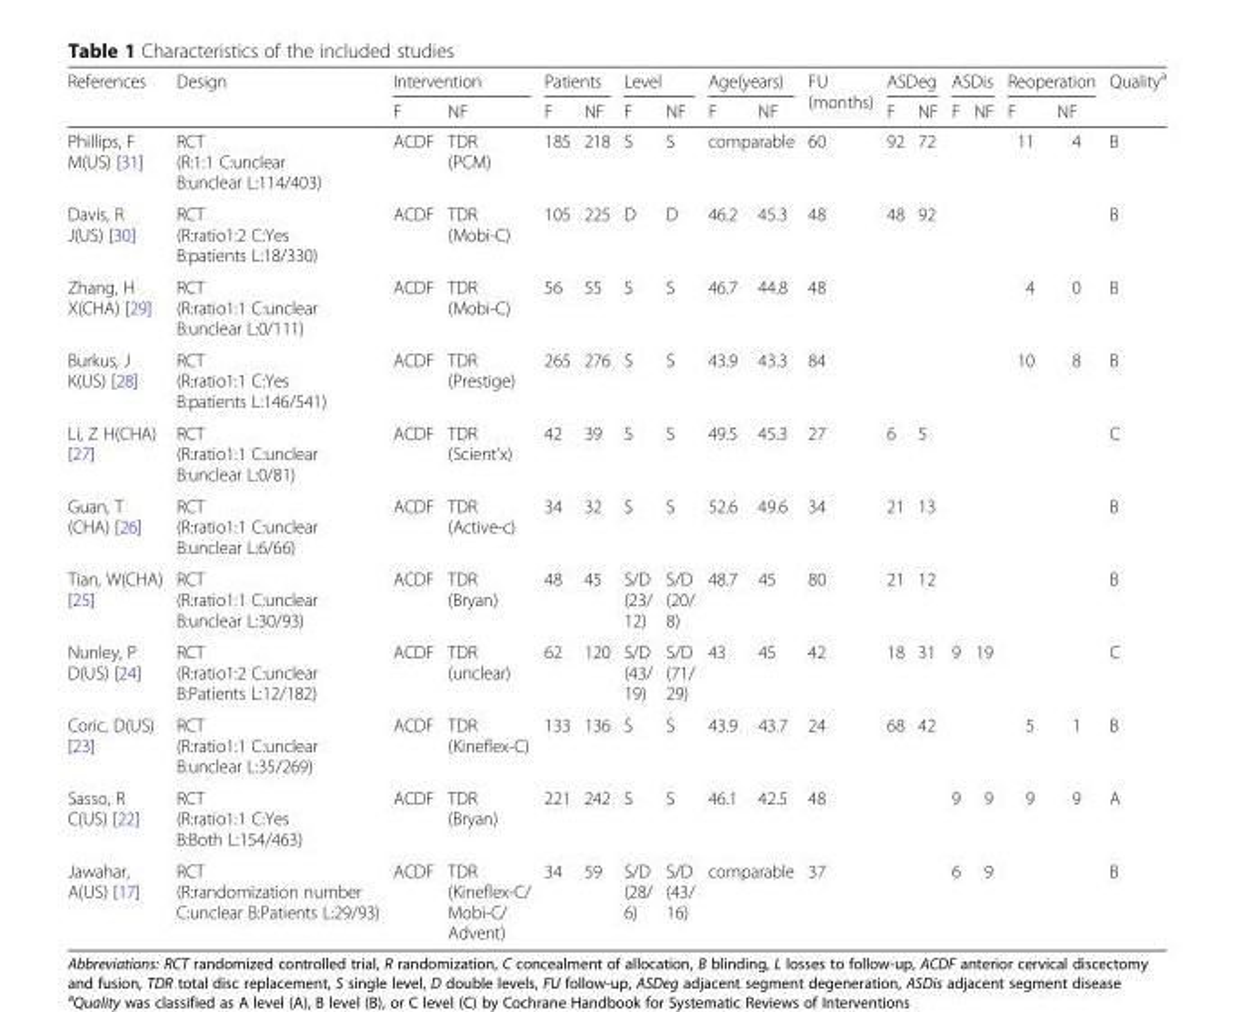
<table><thead><tr><td rowspan="2">References</td><td rowspan="2">Design</td><td colspan="2">Intervention</td><td colspan="2">Patients</td><td colspan="2">Level</td><td colspan="2">Age(years)</td><td rowspan="2">FU (months)</td><td colspan="2">ASDeg</td><td colspan="2">ASDis</td><td colspan="2">Reoperation</td><td rowspan="2">Quality<sup>a</sup></td></tr><tr><td>F</td><td>NF</td><td>F</td><td>NF</td><td>F</td><td>NF</td><td>F</td><td>NF</td><td>F</td><td>NF</td><td>F</td><td>NF</td><td>F</td><td>NF</td></tr></thead><tbody><tr><td>Phillips, F M(US) [31]</td><td>RCT (R:1:1 C:unclear B:unclear L:114/403)</td><td>ACDF</td><td>TDR (PCM)</td><td>185</td><td>218</td><td>S</td><td>S</td><td colspan="2">comparable</td><td>60</td><td>92</td><td>72</td><td></td><td></td><td>11</td><td>4</td><td>B</td></tr><tr><td>Davis, R J(US) [30]</td><td>RCT (R:ratio1:2 C:Yes B:patients L:18/330)</td><td>ACDF</td><td>TDR (Mobi-C)</td><td>105</td><td>225</td><td>D</td><td>D</td><td>46.2</td><td>45.3</td><td>48</td><td>48</td><td>92</td><td></td><td></td><td></td><td></td><td>B</td></tr><tr><td>Zhang, H X(CHA) [29]</td><td>RCT (R:ratio1:1 C:unclear B:unclear L:0/111)</td><td>ACDF</td><td>TDR (Mobi-C)</td><td>56</td><td>55</td><td>S</td><td>S</td><td>46.7</td><td>44.8</td><td>48</td><td></td><td></td><td></td><td></td><td>4</td><td>0</td><td>B</td></tr><tr><td>Burkus, J K(US) [28]</td><td>RCT (R:ratio1:1 C:Yes B:patients L:146/541)</td><td>ACDF</td><td>TDR (Prestige)</td><td>265</td><td>276</td><td>S</td><td>S</td><td>43.9</td><td>43.3</td><td>84</td><td></td><td></td><td></td><td></td><td>10</td><td>8</td><td>B</td></tr><tr><td>Li, Z H(CHA) [27]</td><td>RCT (R:ratio1:1 C:unclear B:unclear L:0/81)</td><td>ACDF</td><td>TDR (Scient’x)</td><td>42</td><td>39</td><td>S</td><td>S</td><td>49.5</td><td>45.3</td><td>27</td><td>6</td><td>5</td><td></td><td></td><td></td><td></td><td>C</td></tr><tr><td>Guan, T (CHA) [26]</td><td>RCT (R:ratio1:1 C:unclear B:unclear L:6/66)</td><td>ACDF</td><td>TDR (Active-c)</td><td>34</td><td>32</td><td>S</td><td>S</td><td>52.6</td><td>49.6</td><td>34</td><td>21</td><td>13</td><td></td><td></td><td></td><td></td><td>B</td></tr><tr><td>Tian, W(CHA) [25]</td><td>RCT (R:ratio1:1 C:unclear B:unclear L:30/93)</td><td>ACDF</td><td>TDR (Bryan)</td><td>48</td><td>45</td><td>S/D (23/ 12)</td><td>S/D (20/ 8)</td><td>48.7</td><td>45</td><td>80</td><td>21</td><td>12</td><td></td><td></td><td></td><td></td><td>B</td></tr><tr><td>Nunley, P D(US) [24]</td><td>RCT (R:ratio1:2 C:unclear B:Patients L:12/182)</td><td>ACDF</td><td>TDR (unclear)</td><td>62</td><td>120</td><td>S/D (43/ 19)</td><td>S/D (71/ 29)</td><td>43</td><td>45</td><td>42</td><td>18</td><td>31</td><td>9</td><td>19</td><td></td><td></td><td>C</td></tr><tr><td>Coric, D(US) [23]</td><td>RCT (R:ratio1:1 C:unclear B:unclear L:35/269)</td><td>ACDF</td><td>TDR (Kineflex-C)</td><td>133</td><td>136</td><td>S</td><td>S</td><td>43.9</td><td>43.7</td><td>24</td><td>68</td><td>42</td><td></td><td></td><td>5</td><td>1</td><td>B</td></tr><tr><td>Sasso, R C(US) [22]</td><td>RCT (R:ratio1:1 C:Yes B:Both L:154/463)</td><td>ACDF</td><td>TDR (Bryan)</td><td>221</td><td>242</td><td>S</td><td>S</td><td>46.1</td><td>42.5</td><td>48</td><td></td><td></td><td>9</td><td>9</td><td>9</td><td>9</td><td>A</td></tr><tr><td>Jawahar, A(US) [17]</td><td>RCT (R:randomization number C:unclear B:Patients L:29/93)</td><td>ACDF</td><td>TDR (Kineflex-C/ Mobi-C/ Advent)</td><td>34</td><td>59</td><td>S/D (28/ 6)</td><td>S/D (43/ 16)</td><td colspan="2">comparable</td><td>37</td><td></td><td></td><td>6</td><td>9</td><td></td><td></td><td>B</td></tr></tbody></table>